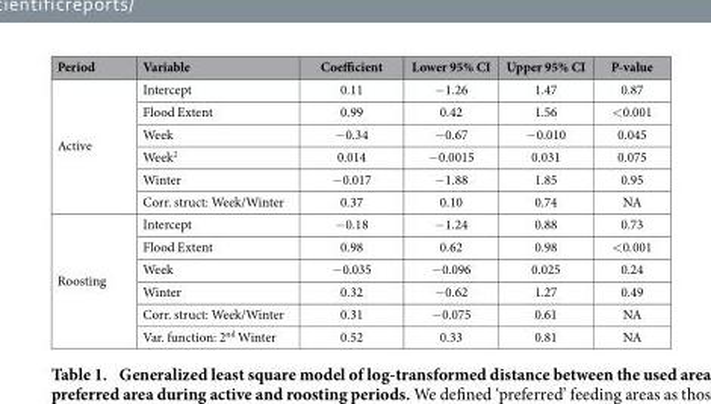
<table><thead><tr><td>Period</td><td>Variable</td><td>Coefficient</td><td>Lower 95% CI</td><td>Upper 95% CI</td><td>P-value</td></tr></thead><tbody><tr><td rowspan="6">Active</td><td>Intercept</td><td>0.11</td><td>− 1.26</td><td>1.47</td><td>0.87</td></tr><tr><td>Flood Extent</td><td>0.99</td><td>0.42</td><td>1.56</td><td>&lt; 0.001</td></tr><tr><td>Week</td><td>− 0.34</td><td>− 0.67</td><td>− 0.010</td><td>0.045</td></tr><tr><td>Week<sup>2</sup></td><td>0.014</td><td>− 0.0015</td><td>0.031</td><td>0.075</td></tr><tr><td>Winter</td><td>− 0.017</td><td>− 1.88</td><td>1.85</td><td>0.95</td></tr><tr><td>Corr. struct: Week/Winter</td><td>0.37</td><td>0.10</td><td>0.74</td><td>NA</td></tr><tr><td rowspan="6">Roosting</td><td>Intercept</td><td>− 0.18</td><td>− 1.24</td><td>0.88</td><td>0.73</td></tr><tr><td>Flood Extent</td><td>0.98</td><td>0.62</td><td>0.98</td><td>&lt; 0.001</td></tr><tr><td>Week</td><td>− 0.035</td><td>− 0.096</td><td>0.025</td><td>0.24</td></tr><tr><td>Winter</td><td>0.32</td><td>− 0.62</td><td>1.27</td><td>0.49</td></tr><tr><td>Corr. struct: Week/Winter</td><td>0.31</td><td>− 0.075</td><td>0.61</td><td>NA</td></tr><tr><td>Var. function: 2<sup>nd</sup> Winter</td><td>0.52</td><td>0.33</td><td>0.81</td><td>NA</td></tr></tbody></table>